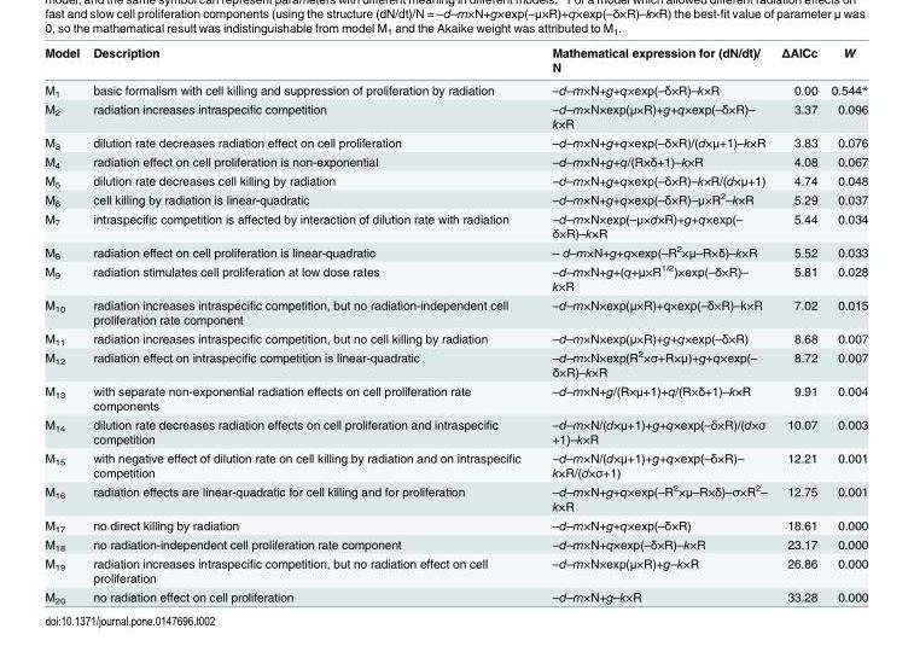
<table><thead><tr><td>Model</td><td>Description</td><td>Mathematical expression for (dN/dt)/ N</td><td>ΔAICc</td><td>W</td></tr></thead><tbody><tr><td>M<sub>1</sub></td><td>basic formalism with cell killing and suppression of proliferation by radiation</td><td>–d–m×N+g+q×exp(–δ×R)–k×R</td><td>0.00</td><td>0.544*</td></tr><tr><td>M<sub>2</sub></td><td>radiation increases intraspecific competition</td><td>–d–m×N×exp(μ×R)+g+q×exp(–δ×R)– k×R</td><td>3.37</td><td>0.096</td></tr><tr><td>M<sub>3</sub></td><td>dilution rate decreases radiation effect on cell proliferation</td><td>–d–m×N+g+q×exp(–δ×R)/(d×μ+1)–k×R</td><td>3.83</td><td>0.076</td></tr><tr><td>M<sub>4</sub></td><td>radiation effect on cell proliferation is non-exponential</td><td>–d–m×N+g+q/(R×δ+1)–k×R</td><td>4.08</td><td>0.067</td></tr><tr><td>M<sub>5</sub></td><td>dilution rate decreases cell killing by radiation</td><td>–d–m×N+g+q×exp(–δ×R)–k×R/(d×μ+1)</td><td>4.74</td><td>0.048</td></tr><tr><td>M<sub>6</sub></td><td>cell killing by radiation is linear-quadratic</td><td>–d–m×N+g+q×exp(–δ×R)–μ×R<sup>2</sup>–k×R</td><td>5.29</td><td>0.037</td></tr><tr><td>M<sub>7</sub></td><td>intraspecific competition is affected by interaction of dilution rate with radiation</td><td>–d–m×N×exp(–μ×d×R)+g+q×exp(– δ×R)–k×R</td><td>5.44</td><td>0.034</td></tr><tr><td>M<sub>8</sub></td><td>radiation effect on cell proliferation is linear-quadratic</td><td>– d–m×N+g+q×exp(–R<sup>2</sup>×μ–R×δ)–k×R</td><td>5.52</td><td>0.033</td></tr><tr><td>M<sub>9</sub></td><td>radiation stimulates cell proliferation at low dose rates</td><td>–d–m×N+g+(q+μ×R<sup>1/2</sup>)×exp(–δ×R)– k×R</td><td>5.81</td><td>0.028</td></tr><tr><td>M<sub>10</sub></td><td>radiation increases intraspecific competition, but no radiation-independent cell proliferation rate component</td><td>–d–m×N×exp(μ×R)+q×exp(–δ×R)–k×R</td><td>7.02</td><td>0.015</td></tr><tr><td>M<sub>11</sub></td><td>radiation increases intraspecific competition, but no cell killing by radiation</td><td>–d–m×N×exp(μ×R)+g+q×exp(–δ×R)</td><td>8.68</td><td>0.007</td></tr><tr><td>M<sub>12</sub></td><td>radiation effect on intraspecific competition is linear-quadratic</td><td>–d–m×N×exp(R<sup>2</sup>×σ+R×μ)+g+q×exp(– δ×R)–k×R</td><td>8.72</td><td>0.007</td></tr><tr><td>M<sub>13</sub></td><td>with separate non-exponential radiation effects on cell proliferation rate components</td><td>–d–m×N+g/(R×μ+1)+q/(R×δ+1)–k×R</td><td>9.91</td><td>0.004</td></tr><tr><td>M<sub>14</sub></td><td>dilution rate decreases radiation effects on cell proliferation and intraspecific competition</td><td>–d–m×N/(d×μ+1)+g+q×exp(–δ×R)/(d×σ +1)–k×R</td><td>10.07</td><td>0.003</td></tr><tr><td>M<sub>15</sub></td><td>with negative effect of dilution rate on cell killing by radiation and on intraspecific competition</td><td>–d–m×N/(d×μ+1)+g+q×exp(–δ×R)– k×R/(d×σ+1)</td><td>12.21</td><td>0.001</td></tr><tr><td>M<sub>16</sub></td><td>radiation effects are linear-quadratic for cell killing and for proliferation</td><td>–d–m×N+g+q×exp(–R<sup>2</sup>×μ–R×δ)–σ×R<sup>2</sup>– k×R</td><td>12.75</td><td>0.001</td></tr><tr><td>M<sub>17</sub></td><td>no direct killing by radiation</td><td>–d–m×N+g+q×exp(–δ×R)</td><td>18.61</td><td>0.000</td></tr><tr><td>M<sub>18</sub></td><td>no radiation-independent cell proliferation rate component</td><td>–d–m×N+q×exp(–δ×R)–k×R</td><td>23.17</td><td>0.000</td></tr><tr><td>M<sub>19</sub></td><td>radiation increases intraspecific competition, but no radiation effect on cell proliferation</td><td>–d–m×N×exp(μ×R)+g–k×R</td><td>26.86</td><td>0.000</td></tr><tr><td>M<sub>20</sub></td><td>no radiation effect on cell proliferation</td><td>–d–m×N+g–k×R</td><td>33.28</td><td>0.000</td></tr></tbody></table>